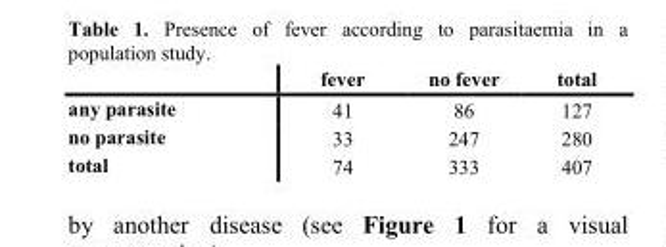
<table><thead><tr><td></td><td>fever</td><td>no fever</td><td>total</td></tr></thead><tbody><tr><td>any parasite</td><td>41</td><td>86</td><td>127</td></tr><tr><td>no parasite</td><td>33</td><td>247</td><td>280</td></tr><tr><td>total</td><td>74</td><td>333</td><td>407</td></tr></tbody></table>